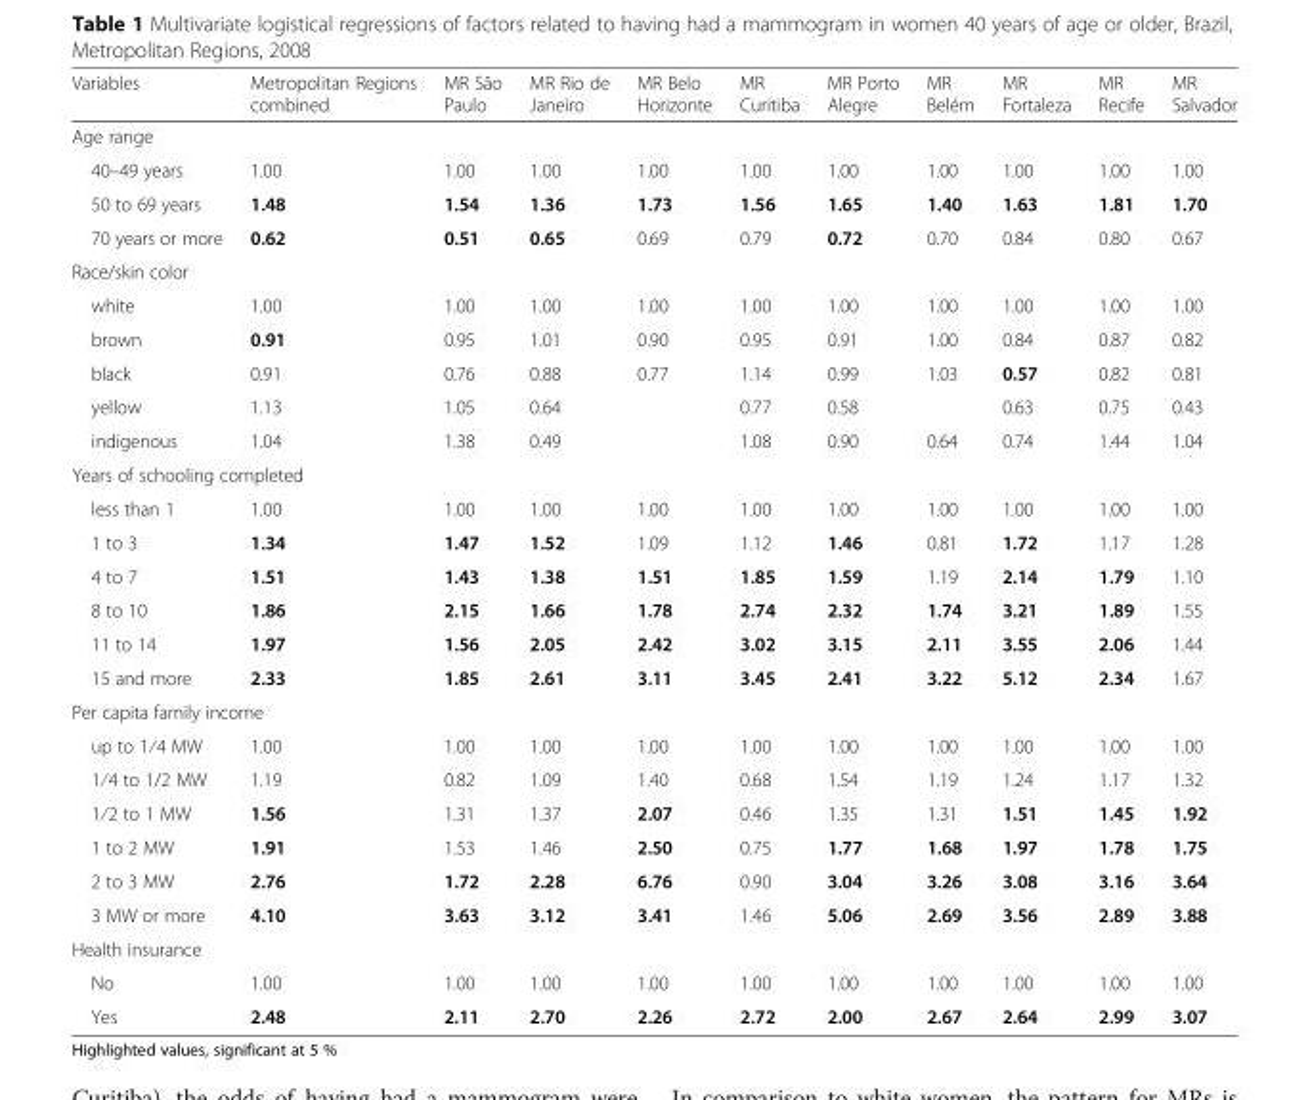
<table><thead><tr><td>Variables</td><td>Metropolitan Regions combined</td><td>MR São Paulo</td><td>MR Rio de Janeiro</td><td>MR Belo Horizonte</td><td>MR Curitiba</td><td>MR Porto Alegre</td><td>MR Belém</td><td>MR Fortaleza</td><td>MR Recife</td><td>MR Salvador</td></tr></thead><tbody><tr><td colspan="11">Age range</td></tr><tr><td>40–49 years</td><td>1.00</td><td>1.00</td><td>1.00</td><td>1.00</td><td>1.00</td><td>1.00</td><td>1.00</td><td>1.00</td><td>1.00</td><td>1.00</td></tr><tr><td>50 to 69 years</td><td>1.48</td><td>1.54</td><td>1.36</td><td>1.73</td><td>1.56</td><td>1.65</td><td>1.40</td><td>1.63</td><td>1.81</td><td>1.70</td></tr><tr><td>70 years or more</td><td>0.62</td><td>0.51</td><td>0.65</td><td>0.69</td><td>0.79</td><td>0.72</td><td>0.70</td><td>0.84</td><td>0.80</td><td>0.67</td></tr><tr><td colspan="11">Race/skin color</td></tr><tr><td>white</td><td>1.00</td><td>1.00</td><td>1.00</td><td>1.00</td><td>1.00</td><td>1.00</td><td>1.00</td><td>1.00</td><td>1.00</td><td>1.00</td></tr><tr><td>brown</td><td>0.91</td><td>0.95</td><td>1.01</td><td>0.90</td><td>0.95</td><td>0.91</td><td>1.00</td><td>0.84</td><td>0.87</td><td>0.82</td></tr><tr><td>black</td><td>0.91</td><td>0.76</td><td>0.88</td><td>0.77</td><td>1.14</td><td>0.99</td><td>1.03</td><td>0.57</td><td>0.82</td><td>0.81</td></tr><tr><td>yellow</td><td>1.13</td><td>1.05</td><td>0.64</td><td></td><td>0.77</td><td>0.58</td><td></td><td>0.63</td><td>0.75</td><td>0.43</td></tr><tr><td>indigenous</td><td>1.04</td><td>1.38</td><td>0.49</td><td></td><td>1.08</td><td>0.90</td><td>0.64</td><td>0.74</td><td>1.44</td><td>1.04</td></tr><tr><td colspan="11">Years of schooling completed</td></tr><tr><td>less than 1</td><td>1.00</td><td>1.00</td><td>1.00</td><td>1.00</td><td>1.00</td><td>1.00</td><td>1.00</td><td>1.00</td><td>1.00</td><td>1.00</td></tr><tr><td>1 to 3</td><td>1.34</td><td>1.47</td><td>1.52</td><td>1.09</td><td>1.12</td><td>1.46</td><td>0.81</td><td>1.72</td><td>1.17</td><td>1.28</td></tr><tr><td>4 to 7</td><td>1.51</td><td>1.43</td><td>1.38</td><td>1.51</td><td>1.85</td><td>1.59</td><td>1.19</td><td>2.14</td><td>1.79</td><td>1.10</td></tr><tr><td>8 to 10</td><td>1.86</td><td>2.15</td><td>1.66</td><td>1.78</td><td>2.74</td><td>2.32</td><td>1.74</td><td>3.21</td><td>1.89</td><td>1.55</td></tr><tr><td>11 to 14</td><td>1.97</td><td>1.56</td><td>2.05</td><td>2.42</td><td>3.02</td><td>3.15</td><td>2.11</td><td>3.55</td><td>2.06</td><td>1.44</td></tr><tr><td>15 and more</td><td>2.33</td><td>1.85</td><td>2.61</td><td>3.11</td><td>3.45</td><td>2.41</td><td>3.22</td><td>5.12</td><td>2.34</td><td>1.67</td></tr><tr><td colspan="11">Per capita family income</td></tr><tr><td>up to 1⁄4 MW</td><td>1.00</td><td>1.00</td><td>1.00</td><td>1.00</td><td>1.00</td><td>1.00</td><td>1.00</td><td>1.00</td><td>1.00</td><td>1.00</td></tr><tr><td>1⁄4 to 1/2 MW</td><td>1.19</td><td>0.82</td><td>1.09</td><td>1.40</td><td>0.68</td><td>1.54</td><td>1.19</td><td>1.24</td><td>1.17</td><td>1.32</td></tr><tr><td>1⁄2 to 1 MW</td><td>1.56</td><td>1.31</td><td>1.37</td><td>2.07</td><td>0.46</td><td>1.35</td><td>1.31</td><td>1.51</td><td>1.45</td><td>1.92</td></tr><tr><td>1 to 2 MW</td><td>1.91</td><td>1.53</td><td>1.46</td><td>2.50</td><td>0.75</td><td>1.77</td><td>1.68</td><td>1.97</td><td>1.78</td><td>1.75</td></tr><tr><td>2 to 3 MW</td><td>2.76</td><td>1.72</td><td>2.28</td><td>6.76</td><td>0.90</td><td>3.04</td><td>3.26</td><td>3.08</td><td>3.16</td><td>3.64</td></tr><tr><td>3 MW or more</td><td>4.10</td><td>3.63</td><td>3.12</td><td>3.41</td><td>1.46</td><td>5.06</td><td>2.69</td><td>3.56</td><td>2.89</td><td>3.88</td></tr><tr><td colspan="11">Health insurance</td></tr><tr><td>No</td><td>1.00</td><td>1.00</td><td>1.00</td><td>1.00</td><td>1.00</td><td>1.00</td><td>1.00</td><td>1.00</td><td>1.00</td><td>1.00</td></tr><tr><td>Yes</td><td>2.48</td><td>2.11</td><td>2.70</td><td>2.26</td><td>2.72</td><td>2.00</td><td>2.67</td><td>2.64</td><td>2.99</td><td>3.07</td></tr></tbody></table>